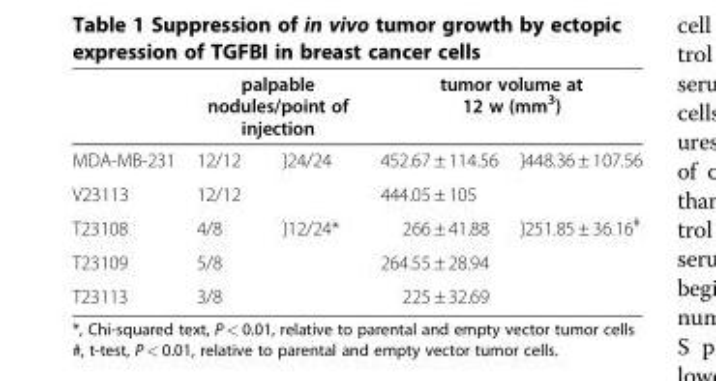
<table><thead><tr><td rowspan="2">MDA-MB-231</td><td colspan="2">palpable nodules/point of injection</td><td colspan="2">tumor volume at 12 w (mm<sup>3</sup>)</td></tr><tr><td>12/12</td><td>}24/24</td><td>452.67 ± 114.56</td><td>}448.36 ± 107.56</td></tr></thead><tbody><tr><td>V23113</td><td>12/12</td><td></td><td>444.05 ± 105</td><td></td></tr><tr><td>T23108</td><td>4/8</td><td>}12/24*</td><td>266 ± 41.88</td><td>}251.85 ± 36.16<sup>#</sup></td></tr><tr><td>T23109</td><td>5/8</td><td></td><td>264.55 ± 28.94</td><td></td></tr><tr><td>T23113</td><td>3/8</td><td></td><td>225 ± 32.69</td><td></td></tr></tbody></table>